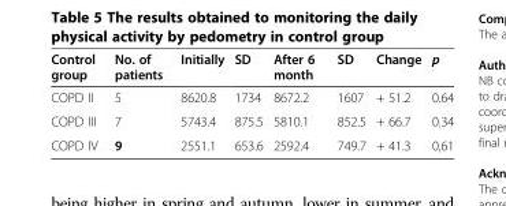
<table><thead><tr><td>Control group</td><td>No. of patients</td><td>Initially</td><td>SD</td><td>After 6 month</td><td>SD</td><td>Change</td><td>p</td></tr></thead><tbody><tr><td>COPD II</td><td>5</td><td>8620.8</td><td>1734</td><td>8672.2</td><td>1607</td><td>+ 51.2</td><td>0.64</td></tr><tr><td>COPD III</td><td>7</td><td>5743.4</td><td>875.5</td><td>5810.1</td><td>852.5</td><td>+ 66.7</td><td>0.34</td></tr><tr><td>COPD IV</td><td>9</td><td>2551.1</td><td>653.6</td><td>2592.4</td><td>749.7</td><td>+ 41.3</td><td>0,61</td></tr></tbody></table>